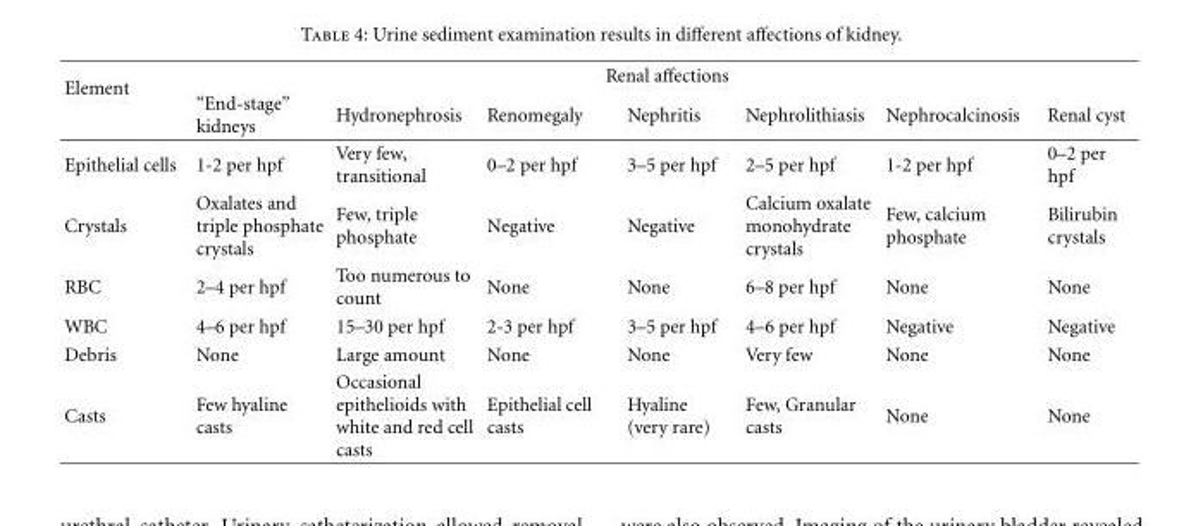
<table><thead><tr><td rowspan="2">Element</td><td colspan="7">Renal affections</td></tr><tr><td>“End-stage” kidneys</td><td>Hydronephrosis</td><td>Renomegaly</td><td>Nephritis</td><td>Nephrolithiasis</td><td>Nephrocalcinosis</td><td>Renal cyst</td></tr></thead><tbody><tr><td>Epithelial cells</td><td>1-2 per hpf</td><td>Very few, transitional</td><td>0–2 per hpf</td><td>3–5 per hpf</td><td>2–5 per hpf</td><td>1-2 per hpf</td><td>0–2 per hpf</td></tr><tr><td>Crystals</td><td>Oxalates and triple phosphate crystals</td><td>Few, triple phosphate</td><td>Negative</td><td>Negative</td><td>Calcium oxalate monohydrate crystals</td><td>Few, calcium phosphate</td><td>Bilirubin crystals</td></tr><tr><td>RBC</td><td>2–4 per hpf</td><td>Too numerous to count</td><td>None</td><td>None</td><td>6–8 per hpf</td><td>None</td><td>None</td></tr><tr><td>WBC</td><td>4–6 per hpf</td><td>15–30 per hpf</td><td>2-3 per hpf</td><td>3–5 per hpf</td><td>4–6 per hpf</td><td>Negative</td><td>Negative</td></tr><tr><td>Debris</td><td>None</td><td>Large amount</td><td>None</td><td>None</td><td>Very few</td><td>None</td><td>None</td></tr><tr><td>Casts</td><td>Few hyaline casts</td><td>Occasional epithelioids with white and red cell casts</td><td>Epithelial cell casts</td><td>Hyaline (very rare)</td><td>Few, Granular casts</td><td>None</td><td>None</td></tr></tbody></table>